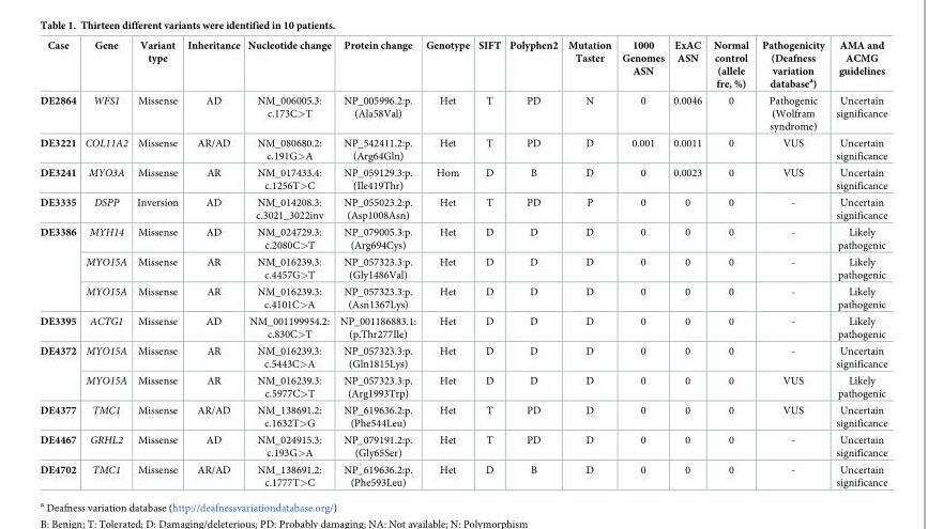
<table><thead><tr><td>Case</td><td>Gene</td><td>Variant type</td><td>Inheritance</td><td>Nucleotide change</td><td>Protein change</td><td>Genotype</td><td>SIFT</td><td>Polyphen2</td><td>Mutation Taster</td><td>1000 Genomes ASN</td><td>ExAC ASN</td><td>Normal control (allele fre, %)</td><td>Pathogenicity (Deafness variation database<sup>a</sup>)</td><td>AMA and ACMG guidelines</td></tr></thead><tbody><tr><td>DE2864</td><td>WFS1</td><td>Missense</td><td>AD</td><td>NM_006005.3: c.173C&gt;T</td><td>NP_005996.2:p. (Ala58Val)</td><td>Het</td><td>T</td><td>PD</td><td>N</td><td>0</td><td>0.0046</td><td>0</td><td>Pathogenic (Wolfram syndrome)</td><td>Uncertain significance</td></tr><tr><td>DE3221</td><td>COL11A2</td><td>Missense</td><td>AR/AD</td><td>NM_080680.2: c.191G&gt;A</td><td>NP_542411.2:p. (Arg64Gln)</td><td>Het</td><td>T</td><td>PD</td><td>D</td><td>0.001</td><td>0.0011</td><td>0</td><td>VUS</td><td>Uncertain significance</td></tr><tr><td>DE3241</td><td>MYO3A</td><td>Missense</td><td>AR</td><td>NM_017433.4: c.1256T&gt;C</td><td>NP_059129.3:p. (Ile419Thr)</td><td>Hom</td><td>D</td><td>B</td><td>D</td><td>0</td><td>0.0023</td><td>0</td><td>VUS</td><td>Uncertain significance</td></tr><tr><td>DE3335</td><td>DSPP</td><td>Inversion</td><td>AD</td><td>NM_014208.3: c.3021_3022inv</td><td>NP_055023.2:p. (Asp1008Asn)</td><td>Het</td><td>T</td><td>PD</td><td>P</td><td>0</td><td>0</td><td>0</td><td>-</td><td>Uncertain significance</td></tr><tr><td rowspan="3">DE3386</td><td>MYH14</td><td>Missense</td><td>AD</td><td>NM_024729.3: c.2080C&gt;T</td><td>NP_079005.3:p. (Arg694Cys)</td><td>Het</td><td>D</td><td>D</td><td>D</td><td>0</td><td>0</td><td>0</td><td>-</td><td>Likely pathogenic</td></tr><tr><td>MYO15A</td><td>Missense</td><td>AR</td><td>NM_016239.3: c.4457G&gt;T</td><td>NP_057323.3:p. (Gly1486Val)</td><td>Het</td><td>D</td><td>D</td><td>D</td><td>0</td><td>0</td><td>0</td><td>-</td><td>Likely pathogenic</td></tr><tr><td>MYO15A</td><td>Missense</td><td>AR</td><td>NM_016239.3: c.4101C&gt;A</td><td>NP_057323.3:p. (Asn1367Lys)</td><td>Het</td><td>D</td><td>D</td><td>D</td><td>0</td><td>0</td><td>0</td><td>-</td><td>Likely pathogenic</td></tr><tr><td>DE3395</td><td>ACTG1</td><td>Missense</td><td>AD</td><td>NM_001199954.2: c.830C&gt;T</td><td>NP_001186883.1: (p.Thr277Ile)</td><td>Het</td><td>D</td><td>D</td><td>D</td><td>0</td><td>0</td><td>0</td><td>-</td><td>Likely pathogenic</td></tr><tr><td rowspan="2">DE4372</td><td>MYO15A</td><td>Missense</td><td>AR</td><td>NM_016239.3: c.5443C&gt;A</td><td>NP_057323.3:p. (Gln1815Lys)</td><td>Het</td><td>D</td><td>D</td><td>D</td><td>0</td><td>0</td><td>0</td><td>-</td><td>Uncertain significance</td></tr><tr><td>MYO15A</td><td>Missense</td><td>AR</td><td>NM_016239.3: c.5977C&gt;T</td><td>NP_057323.3:p. (Arg1993Trp)</td><td>Het</td><td>D</td><td>D</td><td>D</td><td>0</td><td>0</td><td>0</td><td>VUS</td><td>Likely pathogenic</td></tr><tr><td>DE4377</td><td>TMC1</td><td>Missense</td><td>AR/AD</td><td>NM_138691.2: c.1632T&gt;G</td><td>NP_619636.2:p. (Phe544Leu)</td><td>Het</td><td>T</td><td>PD</td><td>D</td><td>0</td><td>0</td><td>0</td><td>VUS</td><td>Uncertain significance</td></tr><tr><td>DE4467</td><td>GRHL2</td><td>Missense</td><td>AD</td><td>NM_024915.3: c.193G&gt;A</td><td>NP_079191.2:p. (Gly65Ser)</td><td>Het</td><td>T</td><td>PD</td><td>D</td><td>0</td><td>0</td><td>0</td><td>-</td><td>Uncertain significance</td></tr><tr><td>DE4702</td><td>TMC1</td><td>Missense</td><td>AR/AD</td><td>NM_138691.2: c.1777T&gt;C</td><td>NP_619636.2:p. (Phe593Leu)</td><td>Het</td><td>D</td><td>B</td><td>D</td><td>0</td><td>0</td><td>0</td><td>-</td><td>Uncertain significance</td></tr></tbody></table>